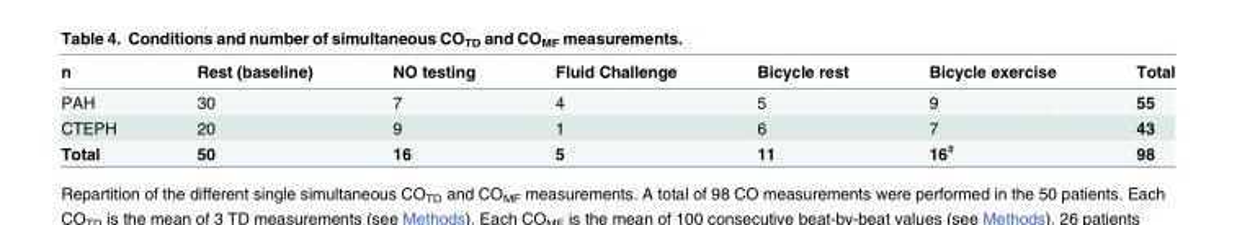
<table><thead><tr><td>n</td><td>Rest (baseline)</td><td>NO testing</td><td>Fluid Challenge</td><td>Bicycle rest</td><td>Bicycle exercise</td><td>Total</td></tr></thead><tbody><tr><td>PAH</td><td>30</td><td>7</td><td>4</td><td>5</td><td>9</td><td>55</td></tr><tr><td>CTEPH</td><td>20</td><td>9</td><td>1</td><td>6</td><td>7</td><td>43</td></tr><tr><td>Total</td><td>50</td><td>16</td><td>5</td><td>11</td><td>16<sup>#</sup></td><td>98</td></tr></tbody></table>